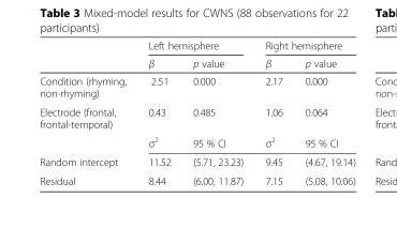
<table><thead><tr><td rowspan="2"></td><td colspan="2">Left hemisphere</td><td colspan="2">Right hemisphere</td></tr><tr><td>β</td><td>p value</td><td>β</td><td>p value</td></tr></thead><tbody><tr><td>Condition (rhyming, non-rhyming)</td><td>2.51</td><td>0.000</td><td>2.17</td><td>0.000</td></tr><tr><td rowspan="2">Electrode (frontal, frontal-temporal)</td><td>0.43</td><td>0.485</td><td>1.06</td><td>0.064</td></tr><tr><td>σ<sup>2</sup></td><td>95 % CI</td><td>σ<sup>2</sup></td><td>95 % CI</td></tr><tr><td>Random intercept</td><td>11.52</td><td>(5.71, 23.23)</td><td>9.45</td><td>(4.67, 19.14)</td></tr><tr><td>Residual</td><td>8.44</td><td>(6.00, 11.87)</td><td>7.15</td><td>(5.08, 10.06)</td></tr></tbody></table>